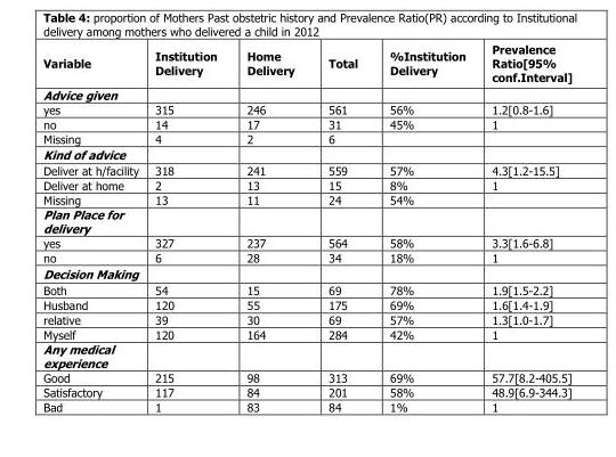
<table><thead><tr><td>Variable</td><td>Institution Delivery</td><td>Home Delivery</td><td>Total</td><td>%Institution Delivery</td><td>Prevalence Ratio[95% conf.Interval]</td></tr></thead><tbody><tr><td colspan="6">Advice given</td></tr><tr><td>yes</td><td>315</td><td>246</td><td>561</td><td>56%</td><td>1.2[0.8-1.6]</td></tr><tr><td>no</td><td>14</td><td>17</td><td>31</td><td>45%</td><td>1</td></tr><tr><td>Missing</td><td>4</td><td>2</td><td>6</td><td></td><td></td></tr><tr><td colspan="6">Kind of advice</td></tr><tr><td>Deliver at h/facility</td><td>318</td><td>241</td><td>559</td><td>57%</td><td>4.3[1.2-15.5]</td></tr><tr><td>Deliver at home</td><td>2</td><td>13</td><td>15</td><td>8%</td><td>1</td></tr><tr><td>Missing</td><td>13</td><td>11</td><td>24</td><td>54%</td><td></td></tr><tr><td colspan="6">Plan Place for delivery</td></tr><tr><td>yes</td><td>327</td><td>237</td><td>564</td><td>58%</td><td>3.3[1.6-6.8]</td></tr><tr><td>no</td><td>6</td><td>28</td><td>34</td><td>18%</td><td>1</td></tr><tr><td colspan="6">Decision Making</td></tr><tr><td>Both</td><td>54</td><td>15</td><td>69</td><td>78%</td><td>1.9[1.5-2.2]</td></tr><tr><td>Husband</td><td>120</td><td>55</td><td>175</td><td>69%</td><td>1.6[1.4-1.9]</td></tr><tr><td>relative</td><td>39</td><td>30</td><td>69</td><td>57%</td><td>1.3[1.0-1.7]</td></tr><tr><td>Myself</td><td>120</td><td>164</td><td>284</td><td>42%</td><td>1</td></tr><tr><td colspan="6">Any medical experience</td></tr><tr><td>Good</td><td>215</td><td>98</td><td>313</td><td>69%</td><td>57.7[8.2-405.5]</td></tr><tr><td>Satisfactory</td><td>117</td><td>84</td><td>201</td><td>58%</td><td>48.9[6.9-344.3]</td></tr><tr><td>Bad</td><td>1</td><td>83</td><td>84</td><td>1%</td><td>1</td></tr></tbody></table>